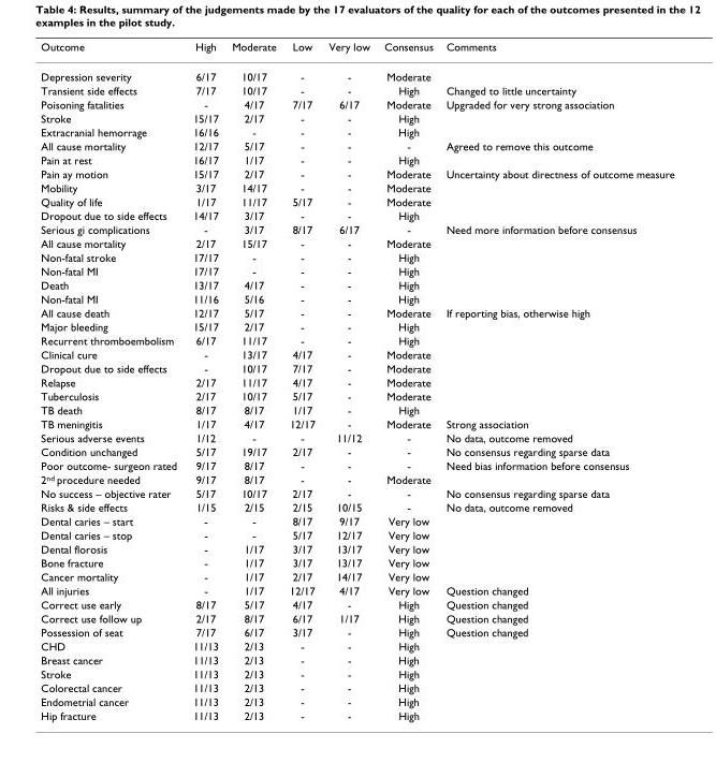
<table><thead><tr><td>Outcome</td><td>High</td><td>Moderate</td><td>Low</td><td>Very low</td><td>Consensus</td><td>Comments</td></tr></thead><tbody><tr><td>Depression severity</td><td>6/17</td><td>10/17</td><td>-</td><td>-</td><td>Moderate</td><td></td></tr><tr><td>Transient side effects</td><td>7/17</td><td>10/17</td><td>-</td><td>-</td><td>High</td><td>Changed to little uncertainty</td></tr><tr><td>Poisoning fatalities</td><td>-</td><td>4/17</td><td>7/17</td><td>6/17</td><td>Moderate</td><td>Upgraded for very strong association</td></tr><tr><td>Stroke</td><td>15/17</td><td>2/17</td><td>-</td><td>-</td><td>High</td><td></td></tr><tr><td>Extracranial hemorrage</td><td>16/16</td><td>-</td><td>-</td><td>-</td><td>High</td><td></td></tr><tr><td>All cause mortality</td><td>12/17</td><td>5/17</td><td>-</td><td>-</td><td>-</td><td>Agreed to remove this outcome</td></tr><tr><td>Pain at rest</td><td>16/17</td><td>1/17</td><td>-</td><td>-</td><td>High</td><td></td></tr><tr><td>Pain ay motion</td><td>15/17</td><td>2/17</td><td>-</td><td>-</td><td>Moderate</td><td>Uncertainty about directness of outcome measure</td></tr><tr><td>Mobility</td><td>3/17</td><td>14/17</td><td>-</td><td>-</td><td>Moderate</td><td></td></tr><tr><td>Quality of life</td><td>1/17</td><td>11/17</td><td>5/17</td><td>-</td><td>Moderate</td><td></td></tr><tr><td>Dropout due to side effects</td><td>14/17</td><td>3/17</td><td>-</td><td>-</td><td>High</td><td></td></tr><tr><td>Serious gi complications</td><td>-</td><td>3/17</td><td>8/17</td><td>6/17</td><td>-</td><td>Need more information before consensus</td></tr><tr><td>All cause mortality</td><td>2/17</td><td>15/17</td><td>-</td><td>-</td><td>Moderate</td><td></td></tr><tr><td>Non-fatal stroke</td><td>17/17</td><td>-</td><td>-</td><td>-</td><td>High</td><td></td></tr><tr><td>Non-fatal MI</td><td>17/17</td><td>-</td><td>-</td><td>-</td><td>High</td><td></td></tr><tr><td>Death</td><td>13/17</td><td>4/17</td><td>-</td><td>-</td><td>High</td><td></td></tr><tr><td>Non-fatal MI</td><td>11/16</td><td>5/16</td><td>-</td><td>-</td><td>High</td><td></td></tr><tr><td>All cause death</td><td>12/17</td><td>5/17</td><td>-</td><td>-</td><td>Moderate</td><td>If reporting bias, otherwise high</td></tr><tr><td>Major bleeding</td><td>15/17</td><td>2/17</td><td>-</td><td>-</td><td>High</td><td></td></tr><tr><td>Recurrent thromboembolism</td><td>6/17</td><td>11/17</td><td>-</td><td>-</td><td>High</td><td></td></tr><tr><td>Clinical cure</td><td>-</td><td>13/17</td><td>4/17</td><td>-</td><td>Moderate</td><td></td></tr><tr><td>Dropout due to side effects</td><td>-</td><td>10/17</td><td>7/17</td><td>-</td><td>Moderate</td><td></td></tr><tr><td>Relapse</td><td>2/17</td><td>11/17</td><td>4/17</td><td>-</td><td>Moderate</td><td></td></tr><tr><td>Tuberculosis</td><td>2/17</td><td>10/17</td><td>5/17</td><td>-</td><td>Moderate</td><td></td></tr><tr><td>TB death</td><td>8/17</td><td>8/17</td><td>1/17</td><td>-</td><td>High</td><td></td></tr><tr><td>TB meningitis</td><td>1/17</td><td>4/17</td><td>12/17</td><td>-</td><td>Moderate</td><td>Strong association</td></tr><tr><td>Serious adverse events</td><td>1/12</td><td>-</td><td>-</td><td>11/12</td><td>-</td><td>No data, outcome removed</td></tr><tr><td>Condition unchanged</td><td>5/17</td><td>19/17</td><td>2/17</td><td>-</td><td>-</td><td>No consensus regarding sparse data</td></tr><tr><td>Poor outcome- surgeon rated</td><td>9/17</td><td>8/17</td><td>-</td><td>-</td><td>-</td><td>Need bias information before consensus</td></tr><tr><td>2<sup>nd</sup> procedure needed</td><td>9/17</td><td>8/17</td><td>-</td><td>-</td><td>Moderate</td><td></td></tr><tr><td>No success – objective rater</td><td>5/17</td><td>10/17</td><td>2/17</td><td>-</td><td>-</td><td>No consensus regarding sparse data</td></tr><tr><td>Risks &amp; side effects</td><td>1/15</td><td>2/15</td><td>2/15</td><td>10/15</td><td>-</td><td>No data, outcome removed</td></tr><tr><td>Dental caries – start</td><td>-</td><td>-</td><td>8/17</td><td>9/17</td><td>Very low</td><td></td></tr><tr><td>Dental caries – stop</td><td>-</td><td>-</td><td>5/17</td><td>12/17</td><td>Very low</td><td></td></tr><tr><td>Dental florosis</td><td>-</td><td>1/17</td><td>3/17</td><td>13/17</td><td>Very low</td><td></td></tr><tr><td>Bone fracture</td><td>-</td><td>1/17</td><td>3/17</td><td>13/17</td><td>Very low</td><td></td></tr><tr><td>Cancer mortality</td><td>-</td><td>1/17</td><td>2/17</td><td>14/17</td><td>Very low</td><td></td></tr><tr><td>All injuries</td><td>-</td><td>1/17</td><td>12/17</td><td>4/17</td><td>Very low</td><td>Question changed</td></tr><tr><td>Correct use early</td><td>8/17</td><td>5/17</td><td>4/17</td><td>-</td><td>High</td><td>Question changed</td></tr><tr><td>Correct use follow up</td><td>2/17</td><td>8/17</td><td>6/17</td><td>1/17</td><td>High</td><td>Question changed</td></tr><tr><td>Possession of seat</td><td>7/17</td><td>6/17</td><td>3/17</td><td>-</td><td>High</td><td>Question changed</td></tr><tr><td>CHD</td><td>11/13</td><td>2/13</td><td>-</td><td>-</td><td>High</td><td></td></tr><tr><td>Breast cancer</td><td>11/13</td><td>2/13</td><td>-</td><td>-</td><td>High</td><td></td></tr><tr><td>Stroke</td><td>11/13</td><td>2/13</td><td>-</td><td>-</td><td>High</td><td></td></tr><tr><td>Colorectal cancer</td><td>11/13</td><td>2/13</td><td>-</td><td>-</td><td>High</td><td></td></tr><tr><td>Endometrial cancer</td><td>11/13</td><td>2/13</td><td>-</td><td>-</td><td>High</td><td></td></tr><tr><td>Hip fracture</td><td>11/13</td><td>2/13</td><td>-</td><td>-</td><td>High</td><td></td></tr></tbody></table>